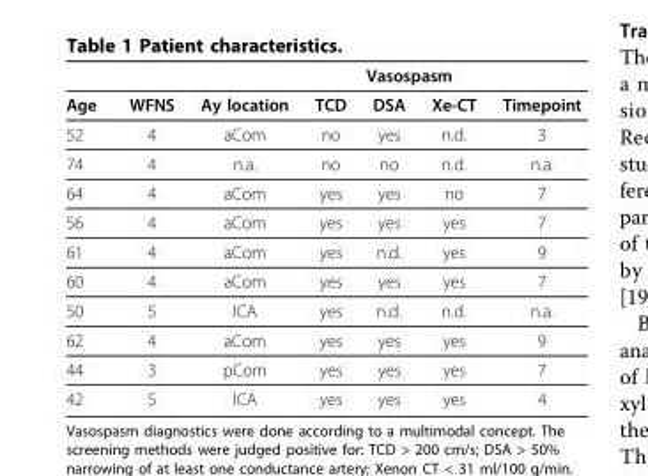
<table><thead><tr><td rowspan="2">Age</td><td rowspan="2">WFNS</td><td rowspan="2">Ay location</td><td rowspan="2">TCD</td><td colspan="2">Vasospasm</td><td rowspan="2">Timepoint</td></tr><tr><td>DSA</td><td>Xe-CT</td></tr></thead><tbody><tr><td>52</td><td>4</td><td>aCom</td><td>no</td><td>yes</td><td>n.d.</td><td>3</td></tr><tr><td>74</td><td>4</td><td>n.a.</td><td>no</td><td>no</td><td>n.d.</td><td>n.a.</td></tr><tr><td>64</td><td>4</td><td>aCom</td><td>yes</td><td>yes</td><td>no</td><td>7</td></tr><tr><td>56</td><td>4</td><td>aCom</td><td>yes</td><td>yes</td><td>yes</td><td>7</td></tr><tr><td>61</td><td>4</td><td>aCom</td><td>yes</td><td>n.d.</td><td>yes</td><td>9</td></tr><tr><td>60</td><td>4</td><td>aCom</td><td>yes</td><td>yes</td><td>yes</td><td>7</td></tr><tr><td>50</td><td>5</td><td>ICA</td><td>yes</td><td>n.d.</td><td>n.d.</td><td>n.a.</td></tr><tr><td>62</td><td>4</td><td>aCom</td><td>yes</td><td>yes</td><td>yes</td><td>9</td></tr><tr><td>44</td><td>3</td><td>pCom</td><td>yes</td><td>yes</td><td>yes</td><td>7</td></tr><tr><td>42</td><td>5</td><td>ICA</td><td>yes</td><td>yes</td><td>yes</td><td>4</td></tr></tbody></table>